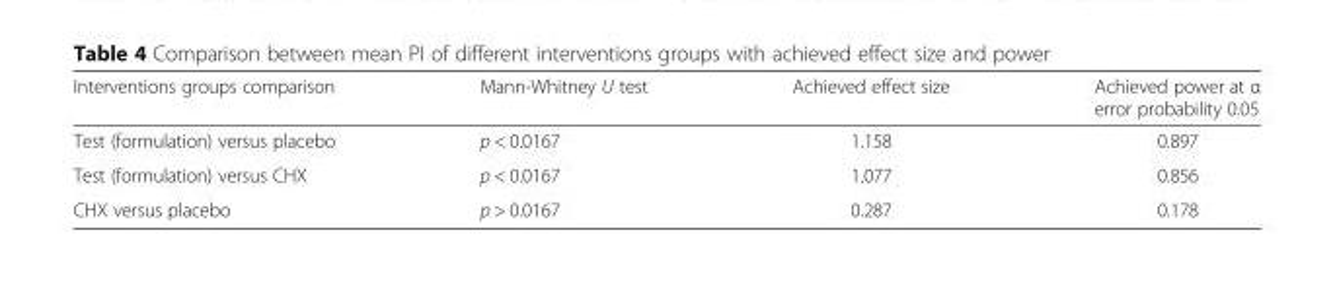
<table><thead><tr><td>Interventions groups comparison</td><td>Mann-Whitney U test</td><td>Achieved effect size</td><td>Achieved power at α error probability 0.05</td></tr></thead><tbody><tr><td>Test (formulation) versus placebo</td><td>p &lt; 0.0167</td><td>1.158</td><td>0.897</td></tr><tr><td>Test (formulation) versus CHX</td><td>p &lt; 0.0167</td><td>1.077</td><td>0.856</td></tr><tr><td>CHX versus placebo</td><td>p &gt; 0.0167</td><td>0.287</td><td>0.178</td></tr></tbody></table>